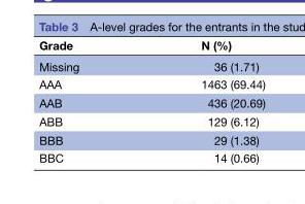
<table><thead><tr><td>Grade</td><td>N (%)</td></tr></thead><tbody><tr><td>Missing</td><td>36 (1.71)</td></tr><tr><td>AAA</td><td>1463 (69.44)</td></tr><tr><td>AAB</td><td>436 (20.69)</td></tr><tr><td>ABB</td><td>129 (6.12)</td></tr><tr><td>BBB</td><td>29 (1.38)</td></tr><tr><td>BBC</td><td>14 (0.66)</td></tr></tbody></table>